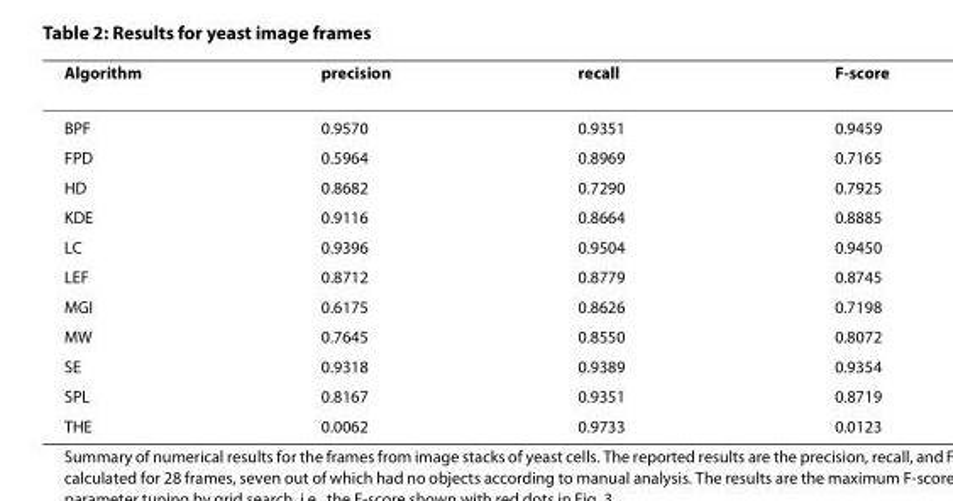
<table><thead><tr><td>Algorithm</td><td>precision</td><td>recall</td><td>F-score</td></tr></thead><tbody><tr><td>BPF</td><td>0.9570</td><td>0.9351</td><td>0.9459</td></tr><tr><td>FPD</td><td>0.5964</td><td>0.8969</td><td>0.7165</td></tr><tr><td>HD</td><td>0.8682</td><td>0.7290</td><td>0.7925</td></tr><tr><td>KDE</td><td>0.9116</td><td>0.8664</td><td>0.8885</td></tr><tr><td>LC</td><td>0.9396</td><td>0.9504</td><td>0.9450</td></tr><tr><td>LEF</td><td>0.8712</td><td>0.8779</td><td>0.8745</td></tr><tr><td>MGI</td><td>0.6175</td><td>0.8626</td><td>0.7198</td></tr><tr><td>MW</td><td>0.7645</td><td>0.8550</td><td>0.8072</td></tr><tr><td>SE</td><td>0.9318</td><td>0.9389</td><td>0.9354</td></tr><tr><td>SPL</td><td>0.8167</td><td>0.9351</td><td>0.8719</td></tr><tr><td>THE</td><td>0.0062</td><td>0.9733</td><td>0.0123</td></tr></tbody></table>